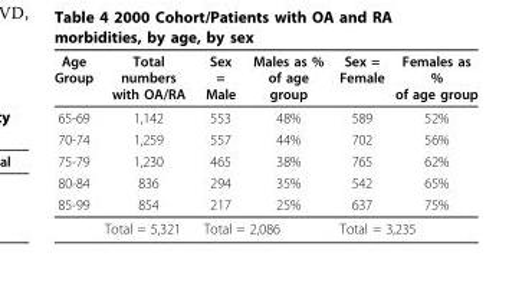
<table><thead><tr><td>Age Group</td><td>Total numbers with OA/RA</td><td>Sex = Male</td><td>Males as % of age group</td><td>Sex = Female</td><td>Females as % of age group</td></tr></thead><tbody><tr><td>65-69</td><td>1,142</td><td>553</td><td>48%</td><td>589</td><td>52%</td></tr><tr><td>70-74</td><td>1,259</td><td>557</td><td>44%</td><td>702</td><td>56%</td></tr><tr><td>75-79</td><td>1,230</td><td>465</td><td>38%</td><td>765</td><td>62%</td></tr><tr><td>80-84</td><td>836</td><td>294</td><td>35%</td><td>542</td><td>65%</td></tr><tr><td rowspan="2">85-99</td><td>854</td><td>217</td><td>25%</td><td>637</td><td>75%</td></tr><tr><td>Total = 5,321</td><td colspan="2">Total = 2,086</td><td colspan="2">Total = 3,235</td></tr></tbody></table>